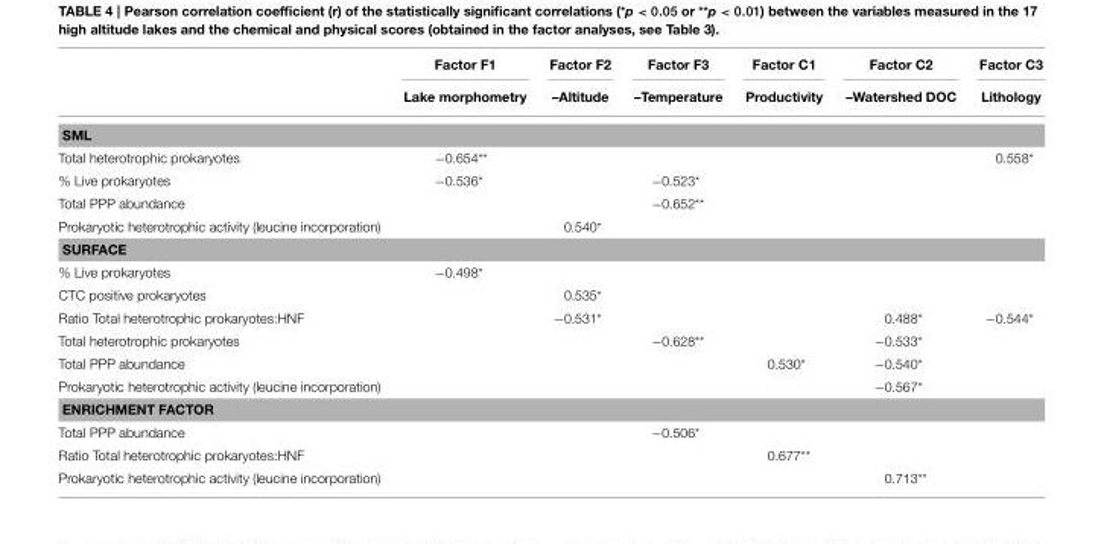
<table><thead><tr><td rowspan="2"></td><td rowspan="2">Factor F1 Lake morphometry</td><td rowspan="2">Factor F2 –Altitude</td><td rowspan="2">Factor F3 –Temperature</td><td rowspan="2">Factor C1 Productivity</td><td rowspan="2">Factor C2 –Watershed DOC</td><td rowspan="2">Factor C3 Lithology</td></tr><tr></tr></thead><tbody><tr><td colspan="7">SML</td></tr><tr><td>Total heterotrophic prokaryotes</td><td>−0.654**</td><td></td><td></td><td></td><td></td><td>0.558*</td></tr><tr><td>% Live prokaryotes</td><td>−0.536*</td><td></td><td>−0.523*</td><td></td><td></td><td></td></tr><tr><td>Total PPP abundance</td><td></td><td></td><td>−0.652**</td><td></td><td></td><td></td></tr><tr><td>Prokaryotic heterotrophic activity (leucine incorporation)</td><td></td><td>0.540*</td><td></td><td></td><td></td><td></td></tr><tr><td colspan="7">SURFACE</td></tr><tr><td>% Live prokaryotes</td><td>−0.498*</td><td></td><td></td><td></td><td></td><td></td></tr><tr><td>CTC positive prokaryotes</td><td></td><td>0.535*</td><td></td><td></td><td></td><td></td></tr><tr><td>Ratio Total heterotrophic prokaryotes:HNF</td><td></td><td>−0.531*</td><td></td><td></td><td>0.488*</td><td>−0.544*</td></tr><tr><td>Total heterotrophic prokaryotes</td><td></td><td></td><td>−0.628**</td><td></td><td>−0.533*</td><td></td></tr><tr><td>Total PPP abundance</td><td></td><td></td><td></td><td>0.530*</td><td>−0.540*</td><td></td></tr><tr><td>Prokaryotic heterotrophic activity (leucine incorporation)</td><td></td><td></td><td></td><td></td><td>−0.567*</td><td></td></tr><tr><td colspan="7">ENRICHMENT FACTOR</td></tr><tr><td>Total PPP abundance</td><td></td><td></td><td>−0.506*</td><td></td><td></td><td></td></tr><tr><td>Ratio Total heterotrophic prokaryotes:HNF</td><td></td><td></td><td></td><td>0.677**</td><td></td><td></td></tr><tr><td>Prokaryotic heterotrophic activity (leucine incorporation)</td><td></td><td></td><td></td><td></td><td>0.713**</td><td></td></tr></tbody></table>